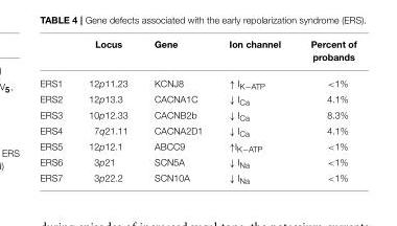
<table><thead><tr><td></td><td>Locus</td><td>Gene</td><td>Ion channel</td><td>Percent of probands</td></tr></thead><tbody><tr><td>ERS1</td><td>12p11.23</td><td>KCNJ8</td><td>↑ I<sub>K−ATP</sub></td><td>&lt;1%</td></tr><tr><td>ERS2</td><td>12p13.3</td><td>CACNA1C</td><td>↓ I<sub>Ca</sub></td><td>4.1%</td></tr><tr><td>ERS3</td><td>10p12.33</td><td>CACNB2b</td><td>↓ I<sub>Ca</sub></td><td>8.3%</td></tr><tr><td>ERS4</td><td>7q21.11</td><td>CACNA2D1</td><td>↓ I<sub>Ca</sub></td><td>4.1%</td></tr><tr><td>ERS5</td><td>12p12.1</td><td>ABCC9</td><td>↑I<sub>K−ATP</sub></td><td>&lt;1%</td></tr><tr><td>ERS6</td><td>3p21</td><td>SCN5A</td><td>↓ I<sub>Na</sub></td><td>&lt;1%</td></tr><tr><td>ERS7</td><td>3p22.2</td><td>SCN10A</td><td>↓ I<sub>Na</sub></td><td>&lt;1%</td></tr></tbody></table>